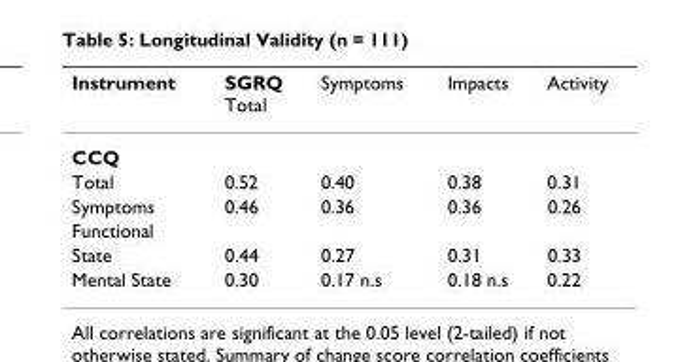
<table><thead><tr><td>Instrument</td><td>SGRQ Total</td><td>Symptoms</td><td>Impacts</td><td>Activity</td></tr></thead><tbody><tr><td colspan="5">CCQ</td></tr><tr><td>Total</td><td>0.52</td><td>0.40</td><td>0.38</td><td>0.31</td></tr><tr><td>Symptoms</td><td>0.46</td><td>0.36</td><td>0.36</td><td>0.26</td></tr><tr><td colspan="5">Functional</td></tr><tr><td>State</td><td>0.44</td><td>0.27</td><td>0.31</td><td>0.33</td></tr><tr><td>Mental State</td><td>0.30</td><td>0.17 n.s</td><td>0.18 n.s</td><td>0.22</td></tr></tbody></table>